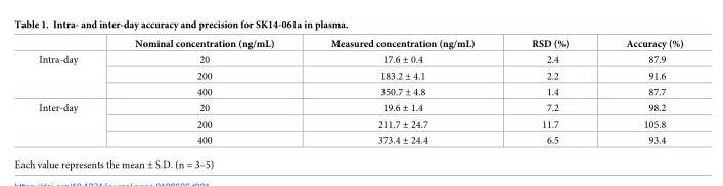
<table><thead><tr><td></td><td>Nominal concentration (ng/mL)</td><td>Measured concentration (ng/mL)</td><td>RSD (%)</td><td>Accuracy (%)</td></tr></thead><tbody><tr><td rowspan="3">Intra-day</td><td>20</td><td>17.6 ± 0.4</td><td>2.4</td><td>87.9</td></tr><tr><td>200</td><td>183.2 ± 4.1</td><td>2.2</td><td>91.6</td></tr><tr><td>400</td><td>350.7 ± 4.8</td><td>1.4</td><td>87.7</td></tr><tr><td rowspan="3">Inter-day</td><td>20</td><td>19.6 ± 1.4</td><td>7.2</td><td>98.2</td></tr><tr><td>200</td><td>211.7 ± 24.7</td><td>11.7</td><td>105.8</td></tr><tr><td>400</td><td>373.4 ± 24.4</td><td>6.5</td><td>93.4</td></tr></tbody></table>